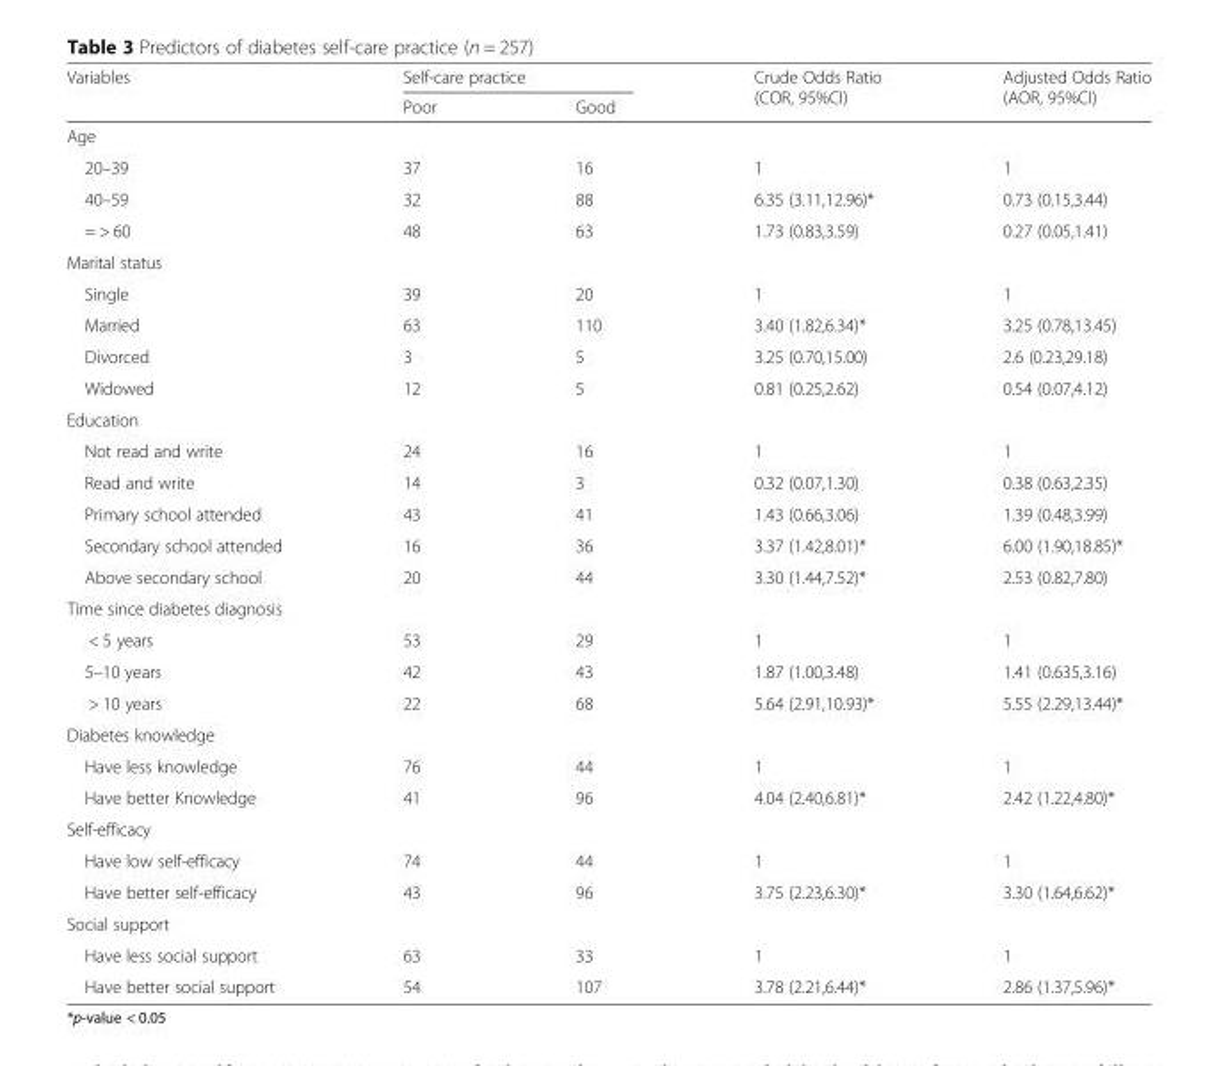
<table><thead><tr><td rowspan="2">Variables</td><td colspan="2">Self-care practice</td><td rowspan="2">Crude Odds Ratio (COR, 95%CI)</td><td rowspan="2">Adjusted Odds Ratio (AOR, 95%CI)</td></tr><tr><td>Poor</td><td>Good</td></tr></thead><tbody><tr><td colspan="5">Age</td></tr><tr><td>20–39</td><td>37</td><td>16</td><td>1</td><td>1</td></tr><tr><td>40–59</td><td>32</td><td>88</td><td>6.35 (3.11,12.96)*</td><td>0.73 (0.15,3.44)</td></tr><tr><td>= &gt; 60</td><td>48</td><td>63</td><td>1.73 (0.83,3.59)</td><td>0.27 (0.05,1.41)</td></tr><tr><td colspan="5">Marital status</td></tr><tr><td>Single</td><td>39</td><td>20</td><td>1</td><td>1</td></tr><tr><td>Married</td><td>63</td><td>110</td><td>3.40 (1.82,6.34)*</td><td>3.25 (0.78,13.45)</td></tr><tr><td>Divorced</td><td>3</td><td>5</td><td>3.25 (0.70,15.00)</td><td>2.6 (0.23,29.18)</td></tr><tr><td>Widowed</td><td>12</td><td>5</td><td>0.81 (0.25,2.62)</td><td>0.54 (0.07,4.12)</td></tr><tr><td colspan="5">Education</td></tr><tr><td>Not read and write</td><td>24</td><td>16</td><td>1</td><td>1</td></tr><tr><td>Read and write</td><td>14</td><td>3</td><td>0.32 (0.07,1.30)</td><td>0.38 (0.63,2.35)</td></tr><tr><td>Primary school attended</td><td>43</td><td>41</td><td>1.43 (0.66,3.06)</td><td>1.39 (0.48,3.99)</td></tr><tr><td>Secondary school attended</td><td>16</td><td>36</td><td>3.37 (1.42,8.01)*</td><td>6.00 (1.90,18.85)*</td></tr><tr><td>Above secondary school</td><td>20</td><td>44</td><td>3.30 (1.44,7.52)*</td><td>2.53 (0.82,7.80)</td></tr><tr><td colspan="5">Time since diabetes diagnosis</td></tr><tr><td>&lt; 5 years</td><td>53</td><td>29</td><td>1</td><td>1</td></tr><tr><td>5–10 years</td><td>42</td><td>43</td><td>1.87 (1.00,3.48)</td><td>1.41 (0.635,3.16)</td></tr><tr><td>&gt; 10 years</td><td>22</td><td>68</td><td>5.64 (2.91,10.93)*</td><td>5.55 (2.29,13.44)*</td></tr><tr><td colspan="5">Diabetes knowledge</td></tr><tr><td>Have less knowledge</td><td>76</td><td>44</td><td>1</td><td>1</td></tr><tr><td>Have better Knowledge</td><td>41</td><td>96</td><td>4.04 (2.40,6.81)*</td><td>2.42 (1.22,4.80)*</td></tr><tr><td colspan="5">Self-efficacy</td></tr><tr><td>Have low self-efficacy</td><td>74</td><td>44</td><td>1</td><td>1</td></tr><tr><td>Have better self-efficacy</td><td>43</td><td>96</td><td>3.75 (2.23,6.30)*</td><td>3.30 (1.64,6.62)*</td></tr><tr><td colspan="5">Social support</td></tr><tr><td>Have less social support</td><td>63</td><td>33</td><td>1</td><td>1</td></tr><tr><td>Have better social support</td><td>54</td><td>107</td><td>3.78 (2.21,6.44)*</td><td>2.86 (1.37,5.96)*</td></tr></tbody></table>